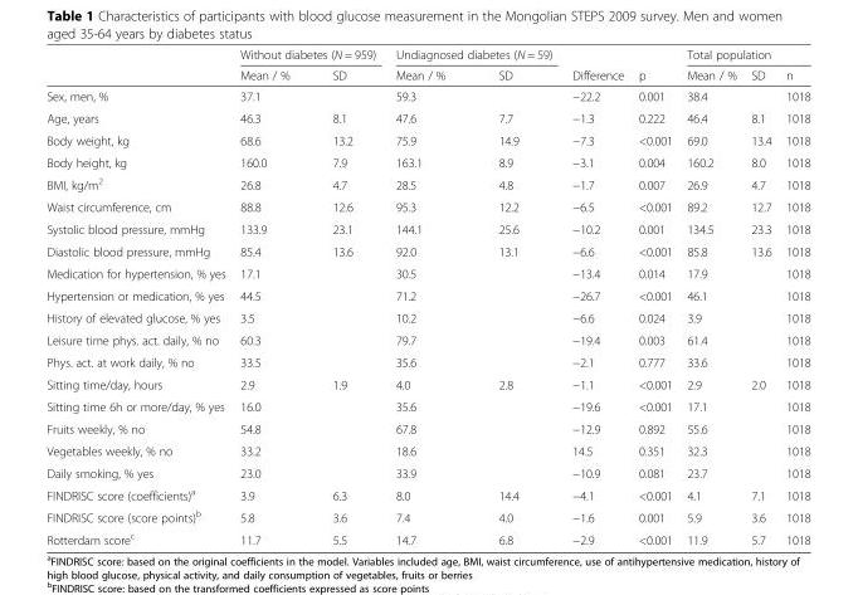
<table><thead><tr><td rowspan="2"></td><td colspan="2">Without diabetes (N = 959)</td><td colspan="2">Undiagnosed diabetes (N = 59)</td><td rowspan="2">Difference</td><td rowspan="2">p</td><td colspan="3">Total population</td></tr><tr><td>Mean / %</td><td>SD</td><td>Mean / %</td><td>SD</td><td>Mean / %</td><td>SD</td><td>n</td></tr></thead><tbody><tr><td>Sex, men, %</td><td>37.1</td><td></td><td>59.3</td><td></td><td>−22.2</td><td>0.001</td><td>38.4</td><td></td><td>1018</td></tr><tr><td>Age, years</td><td>46.3</td><td>8.1</td><td>47.6</td><td>7.7</td><td>−1.3</td><td>0.222</td><td>46.4</td><td>8.1</td><td>1018</td></tr><tr><td>Body weight, kg</td><td>68.6</td><td>13.2</td><td>75.9</td><td>14.9</td><td>−7.3</td><td>&lt;0.001</td><td>69.0</td><td>13.4</td><td>1018</td></tr><tr><td>Body height, kg</td><td>160.0</td><td>7.9</td><td>163.1</td><td>8.9</td><td>−3.1</td><td>0.004</td><td>160.2</td><td>8.0</td><td>1018</td></tr><tr><td>BMI, kg/m<sup>2</sup></td><td>26.8</td><td>4.7</td><td>28.5</td><td>4.8</td><td>−1.7</td><td>0.007</td><td>26.9</td><td>4.7</td><td>1018</td></tr><tr><td>Waist circumference, cm</td><td>88.8</td><td>12.6</td><td>95.3</td><td>12.2</td><td>−6.5</td><td>&lt;0.001</td><td>89.2</td><td>12.7</td><td>1018</td></tr><tr><td>Systolic blood pressure, mmHg</td><td>133.9</td><td>23.1</td><td>144.1</td><td>25.6</td><td>−10.2</td><td>0.001</td><td>134.5</td><td>23.3</td><td>1018</td></tr><tr><td>Diastolic blood pressure, mmHg</td><td>85.4</td><td>13.6</td><td>92.0</td><td>13.1</td><td>−6.6</td><td>&lt;0.001</td><td>85.8</td><td>13.6</td><td>1018</td></tr><tr><td>Medication for hypertension, % yes</td><td>17.1</td><td></td><td>30.5</td><td></td><td>−13.4</td><td>0.014</td><td>17.9</td><td></td><td>1018</td></tr><tr><td>Hypertension or medication, % yes</td><td>44.5</td><td></td><td>71.2</td><td></td><td>−26.7</td><td>&lt;0.001</td><td>46.1</td><td></td><td>1018</td></tr><tr><td>History of elevated glucose, % yes</td><td>3.5</td><td></td><td>10.2</td><td></td><td>−6.6</td><td>0.024</td><td>3.9</td><td></td><td>1018</td></tr><tr><td>Leisure time phys. act. daily, % no</td><td>60.3</td><td></td><td>79.7</td><td></td><td>−19.4</td><td>0.003</td><td>61.4</td><td></td><td>1018</td></tr><tr><td>Phys. act. at work daily, % no</td><td>33.5</td><td></td><td>35.6</td><td></td><td>−2.1</td><td>0.777</td><td>33.6</td><td></td><td>1018</td></tr><tr><td>Sitting time/day, hours</td><td>2.9</td><td>1.9</td><td>4.0</td><td>2.8</td><td>−1.1</td><td>&lt;0.001</td><td>2.9</td><td>2.0</td><td>1018</td></tr><tr><td>Sitting time 6h or more/day, % yes</td><td>16.0</td><td></td><td>35.6</td><td></td><td>−19.6</td><td>&lt;0.001</td><td>17.1</td><td></td><td>1018</td></tr><tr><td>Fruits weekly, % no</td><td>54.8</td><td></td><td>67.8</td><td></td><td>−12.9</td><td>0.892</td><td>55.6</td><td></td><td>1018</td></tr><tr><td>Vegetables weekly, % no</td><td>33.2</td><td></td><td>18.6</td><td></td><td>14.5</td><td>0.351</td><td>32.3</td><td></td><td>1018</td></tr><tr><td>Daily smoking, % yes</td><td>23.0</td><td></td><td>33.9</td><td></td><td>−10.9</td><td>0.081</td><td>23.7</td><td></td><td>1018</td></tr><tr><td>FINDRISC score (coefficients)<sup>a</sup></td><td>3.9</td><td>6.3</td><td>8.0</td><td>14.4</td><td>−4.1</td><td>&lt;0.001</td><td>4.1</td><td>7.1</td><td>1018</td></tr><tr><td>FINDRISC score (score points)<sup>b</sup></td><td>5.8</td><td>3.6</td><td>7.4</td><td>4.0</td><td>−1.6</td><td>0.001</td><td>5.9</td><td>3.6</td><td>1018</td></tr><tr><td>Rotterdam score<sup>c</sup></td><td>11.7</td><td>5.5</td><td>14.7</td><td>6.8</td><td>−2.9</td><td>&lt;0.001</td><td>11.9</td><td>5.7</td><td>1018</td></tr></tbody></table>